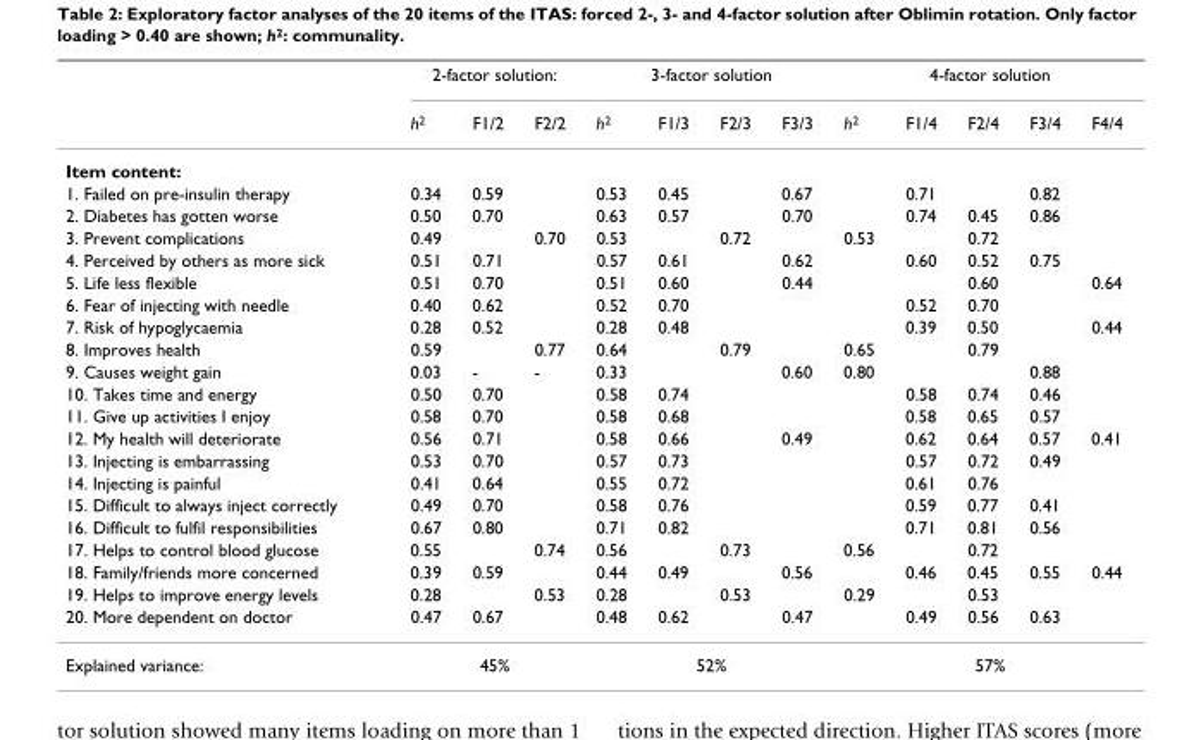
<table><thead><tr><td rowspan="2"></td><td colspan="3">2-factor solution:</td><td colspan="4">3-factor solution</td><td colspan="5">4-factor solution</td></tr><tr><td>h<sup>2</sup></td><td>F1/2</td><td>F2/2</td><td>h<sup>2</sup></td><td>F1/3</td><td>F2/3</td><td>F3/3</td><td>h<sup>2</sup></td><td>F1/4</td><td>F2/4</td><td>F3/4</td><td>F4/4</td></tr></thead><tbody><tr><td colspan="13">Item content:</td></tr><tr><td>1. Failed on pre-insulin therapy</td><td>0.34</td><td>0.59</td><td></td><td>0.53</td><td>0.45</td><td></td><td>0.67</td><td></td><td>0.71</td><td></td><td>0.82</td><td></td></tr><tr><td>2. Diabetes has gotten worse</td><td>0.50</td><td>0.70</td><td></td><td>0.63</td><td>0.57</td><td></td><td>0.70</td><td></td><td>0.74</td><td>0.45</td><td>0.86</td><td></td></tr><tr><td>3. Prevent complications</td><td>0.49</td><td></td><td>0.70</td><td>0.53</td><td></td><td>0.72</td><td></td><td>0.53</td><td></td><td>0.72</td><td></td><td></td></tr><tr><td>4. Perceived by others as more sick</td><td>0.51</td><td>0.71</td><td></td><td>0.57</td><td>0.61</td><td></td><td>0.62</td><td></td><td>0.60</td><td>0.52</td><td>0.75</td><td></td></tr><tr><td>5. Life less flexible</td><td>0.51</td><td>0.70</td><td></td><td>0.51</td><td>0.60</td><td></td><td>0.44</td><td></td><td></td><td>0.60</td><td></td><td>0.64</td></tr><tr><td>6. Fear of injecting with needle</td><td>0.40</td><td>0.62</td><td></td><td>0.52</td><td>0.70</td><td></td><td></td><td></td><td>0.52</td><td>0.70</td><td></td><td></td></tr><tr><td>7. Risk of hypoglycaemia</td><td>0.28</td><td>0.52</td><td></td><td>0.28</td><td>0.48</td><td></td><td></td><td></td><td>0.39</td><td>0.50</td><td></td><td>0.44</td></tr><tr><td>8. Improves health</td><td>0.59</td><td></td><td>0.77</td><td>0.64</td><td></td><td>0.79</td><td></td><td>0.65</td><td></td><td>0.79</td><td></td><td></td></tr><tr><td>9. Causes weight gain</td><td>0.03</td><td>-</td><td>-</td><td>0.33</td><td></td><td></td><td>0.60</td><td>0.80</td><td></td><td></td><td>0.88</td><td></td></tr><tr><td>10. Takes time and energy</td><td>0.50</td><td>0.70</td><td></td><td>0.58</td><td>0.74</td><td></td><td></td><td></td><td>0.58</td><td>0.74</td><td>0.46</td><td></td></tr><tr><td>11. Give up activities I enjoy</td><td>0.58</td><td>0.70</td><td></td><td>0.58</td><td>0.68</td><td></td><td></td><td></td><td>0.58</td><td>0.65</td><td>0.57</td><td></td></tr><tr><td>12. My health will deteriorate</td><td>0.56</td><td>0.71</td><td></td><td>0.58</td><td>0.66</td><td></td><td>0.49</td><td></td><td>0.62</td><td>0.64</td><td>0.57</td><td>0.41</td></tr><tr><td>13. Injecting is embarrassing</td><td>0.53</td><td>0.70</td><td></td><td>0.57</td><td>0.73</td><td></td><td></td><td></td><td>0.57</td><td>0.72</td><td>0.49</td><td></td></tr><tr><td>14. Injecting is painful</td><td>0.41</td><td>0.64</td><td></td><td>0.55</td><td>0.72</td><td></td><td></td><td></td><td>0.61</td><td>0.76</td><td></td><td></td></tr><tr><td>15. Difficult to always inject correctly</td><td>0.49</td><td>0.70</td><td></td><td>0.58</td><td>0.76</td><td></td><td></td><td></td><td>0.59</td><td>0.77</td><td>0.41</td><td></td></tr><tr><td>16. Difficult to fulfil responsibilities</td><td>0.67</td><td>0.80</td><td></td><td>0.71</td><td>0.82</td><td></td><td></td><td></td><td>0.71</td><td>0.81</td><td>0.56</td><td></td></tr><tr><td>17. Helps to control blood glucose</td><td>0.55</td><td></td><td>0.74</td><td>0.56</td><td></td><td>0.73</td><td></td><td>0.56</td><td></td><td>0.72</td><td></td><td></td></tr><tr><td>18. Family/friends more concerned</td><td>0.39</td><td>0.59</td><td></td><td>0.44</td><td>0.49</td><td></td><td>0.56</td><td></td><td>0.46</td><td>0.45</td><td>0.55</td><td>0.44</td></tr><tr><td>19. Helps to improve energy levels</td><td>0.28</td><td></td><td>0.53</td><td>0.28</td><td></td><td>0.53</td><td></td><td>0.29</td><td></td><td>0.53</td><td></td><td></td></tr><tr><td>20. More dependent on doctor</td><td>0.47</td><td>0.67</td><td></td><td>0.48</td><td>0.62</td><td></td><td>0.47</td><td></td><td>0.49</td><td>0.56</td><td>0.63</td><td></td></tr><tr><td>Explained variance:</td><td colspan="3">45%</td><td colspan="4">52%</td><td colspan="5">57%</td></tr></tbody></table>